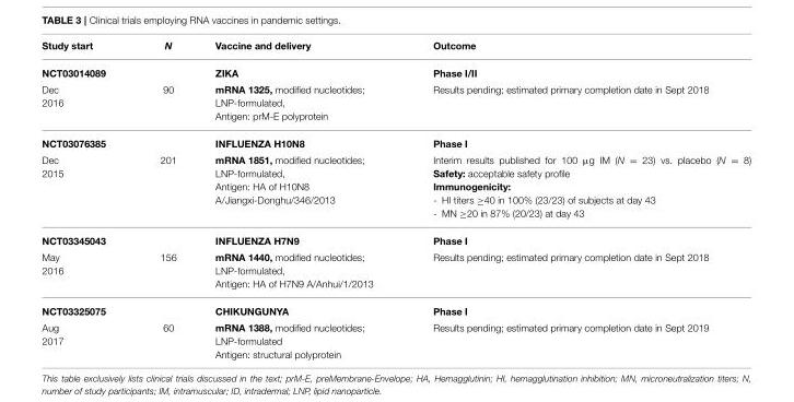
<table><thead><tr><td>Study start</td><td>N</td><td>Vaccine and delivery</td><td>Outcome</td></tr></thead><tbody><tr><td colspan="2">NCT03014089</td><td>ZIKA</td><td>Phase I/II</td></tr><tr><td>Dec 2016</td><td>90</td><td>mRNA 1325, modified nucleotides; LNP-formulated, Antigen: prM-E polyprotein</td><td>Results pending; estimated primary completion date in Sept 2018</td></tr><tr><td colspan="2">NCT03076385</td><td>INFLUENZA H10N8</td><td>Phase I</td></tr><tr><td>Dec 2015</td><td>201</td><td>mRNA 1851, modified nucleotides; LNP-formulated, Antigen: HA of H10N8 A/Jiangxi-Donghu/346/2013</td><td>Interim results published for 100 µg IM (N = 23) vs. placebo (N = 8) Safety: acceptable safety profile Immunogenicity: - HI titers ≥40 in 100% (23/23) of subjects at day 43 - MN ≥20 in 87% (20/23) at day 43</td></tr><tr><td colspan="2">NCT03345043</td><td>INFLUENZA H7N9</td><td>Phase I</td></tr><tr><td>May 2016</td><td>156</td><td>mRNA 1440, modified nucleotides; LNP-formulated, Antigen: HA of H7N9 A/Anhui/1/2013</td><td>Results pending; estimated primary completion date in Sept 2018</td></tr><tr><td colspan="2">NCT03325075</td><td>CHIKUNGUNYA</td><td>Phase I</td></tr><tr><td>Aug 2017</td><td>60</td><td>mRNA 1388, modified nucleotides; LNP-formulated Antigen: structural polyprotein</td><td>Results pending; estimated primary completion date in Sept 2019</td></tr></tbody></table>